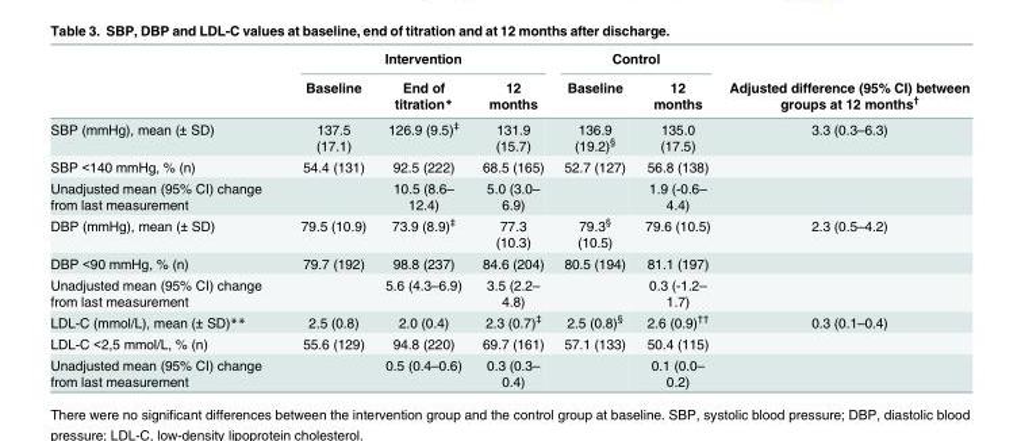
<table><thead><tr><td rowspan="2"></td><td colspan="3">Intervention</td><td colspan="2">Control</td><td rowspan="2">Adjusted difference (95% CI) between groups at 12 months<sup>†</sup></td></tr><tr><td>Baseline</td><td>End of titration*</td><td>12 months</td><td>Baseline</td><td>12 months</td></tr></thead><tbody><tr><td>SBP (mmHg), mean (± SD)</td><td>137.5 (17.1)</td><td>126.9 (9.5)<sup>‡</sup></td><td>131.9 (15.7)</td><td>136.9 (19.2)<sup>§</sup></td><td>135.0 (17.5)</td><td>3.3 (0.3–6.3)</td></tr><tr><td>SBP &lt;140 mmHg, % (n)</td><td>54.4 (131)</td><td>92.5 (222)</td><td>68.5 (165)</td><td>52.7 (127)</td><td>56.8 (138)</td><td></td></tr><tr><td>Unadjusted mean (95% CI) change from last measurement</td><td></td><td>10.5 (8.6– 12.4)</td><td>5.0 (3.0– 6.9)</td><td></td><td>1.9 (-0.6– 4.4)</td><td></td></tr><tr><td>DBP (mmHg), mean (± SD)</td><td>79.5 (10.9)</td><td>73.9 (8.9)<sup>‡</sup></td><td>77.3 (10.3)</td><td>79.3<sup>§</sup> (10.5)</td><td>79.6 (10.5)</td><td>2.3 (0.5–4.2)</td></tr><tr><td>DBP &lt;90 mmHg, % (n)</td><td>79.7 (192)</td><td>98.8 (237)</td><td>84.6 (204)</td><td>80.5 (194)</td><td>81.1 (197)</td><td></td></tr><tr><td>Unadjusted mean (95% CI) change from last measurement</td><td></td><td>5.6 (4.3–6.9)</td><td>3.5 (2.2– 4.8)</td><td></td><td>0.3 (-1.2– 1.7)</td><td></td></tr><tr><td>LDL-C (mmol/L), mean (± SD)**</td><td>2.5 (0.8)</td><td>2.0 (0.4)</td><td>2.3 (0.7)<sup>‡</sup></td><td>2.5 (0.8)<sup>§</sup></td><td>2.6 (0.9)<sup>††</sup></td><td>0.3 (0.1–0.4)</td></tr><tr><td>LDL-C &lt;2,5 mmol/L, % (n)</td><td>55.6 (129)</td><td>94.8 (220)</td><td>69.7 (161)</td><td>57.1 (133)</td><td>50.4 (115)</td><td></td></tr><tr><td>Unadjusted mean (95% CI) change from last measurement</td><td></td><td>0.5 (0.4–0.6)</td><td>0.3 (0.3– 0.4)</td><td></td><td>0.1 (0.0– 0.2)</td><td></td></tr></tbody></table>